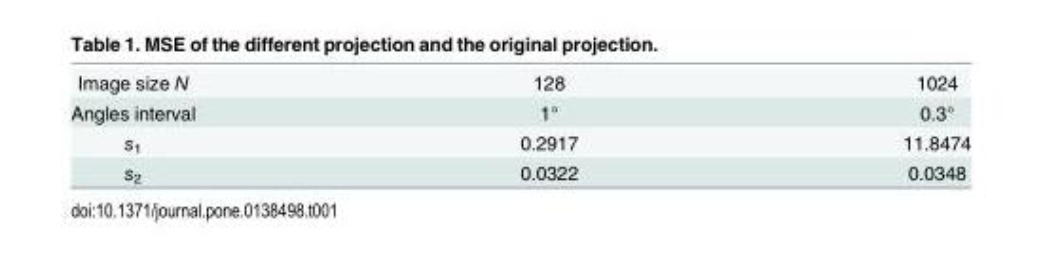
<table><tbody><tr><td>Image size N</td><td>128</td><td>1024</td></tr><tr><td>Angles interval</td><td>1°</td><td>0.3°</td></tr><tr><td>s<sub>1</sub></td><td>0.2917</td><td>11.8474</td></tr><tr><td>s<sub>2</sub></td><td>0.0322</td><td>0.0348</td></tr></tbody></table>